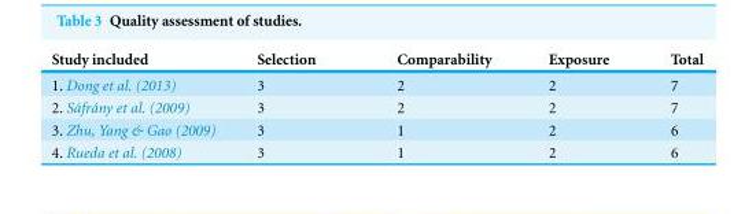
<table><thead><tr><td>Study included</td><td>Selection</td><td>Comparability</td><td>Exposure</td><td>Total</td></tr></thead><tbody><tr><td>1. Dong et al. (2013)</td><td>3</td><td>2</td><td>2</td><td>7</td></tr><tr><td>2. S´afr´any et al. (2009)</td><td>3</td><td>2</td><td>2</td><td>7</td></tr><tr><td>3. Zhu, Yang &amp; Gao (2009)</td><td>3</td><td>1</td><td>2</td><td>6</td></tr><tr><td>4. Rueda et al. (2008)</td><td>3</td><td>1</td><td>2</td><td>6</td></tr></tbody></table>